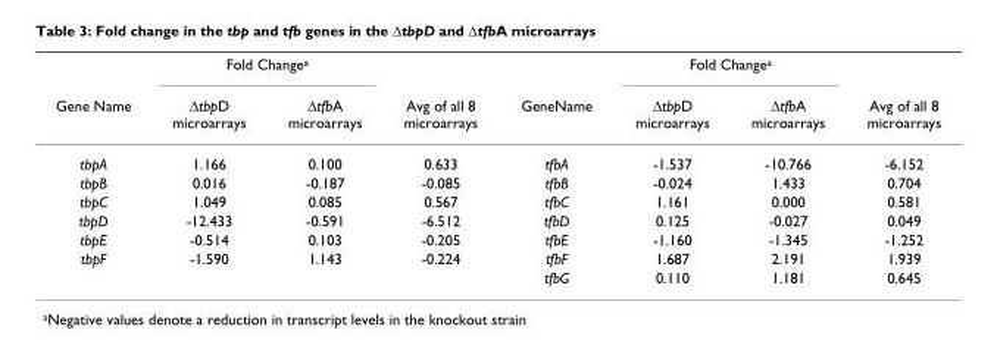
<table><thead><tr><td rowspan="2">Gene Name</td><td colspan="2">Fold Change<sup>a</sup></td><td rowspan="2">Avg of all 8 microarrays</td><td rowspan="2">GeneName</td><td colspan="2">Fold Change<sup>a</sup></td><td rowspan="2">Avg of all 8 microarrays</td></tr><tr><td>∆tbpD microarrays</td><td>∆tfbA microarrays</td><td>∆tbpD microarrays</td><td>∆tfbA microarrays</td></tr></thead><tbody><tr><td>tbpA</td><td>1.166</td><td>0.100</td><td>0.633</td><td>tfbA</td><td>-1.537</td><td>-10.766</td><td>-6.152</td></tr><tr><td>tbpB</td><td>0.016</td><td>-0.187</td><td>-0.085</td><td>tfbB</td><td>-0.024</td><td>1.433</td><td>0.704</td></tr><tr><td>tbpC</td><td>1.049</td><td>0.085</td><td>0.567</td><td>tfbC</td><td>1.161</td><td>0.000</td><td>0.581</td></tr><tr><td>tbpD</td><td>-12.433</td><td>-0.591</td><td>-6.512</td><td>tfbD</td><td>0.125</td><td>-0.027</td><td>0.049</td></tr><tr><td>tbpE</td><td>-0.514</td><td>0.103</td><td>-0.205</td><td>tfbE</td><td>-1.160</td><td>-1.345</td><td>-1.252</td></tr><tr><td rowspan="2">tbpF</td><td>-1.590</td><td>1.143</td><td>-0.224</td><td>tfbF</td><td>1.687</td><td>2.191</td><td>1.939</td></tr><tr><td></td><td></td><td></td><td>tfbG</td><td>0.110</td><td>1.181</td><td>0.645</td></tr></tbody></table>